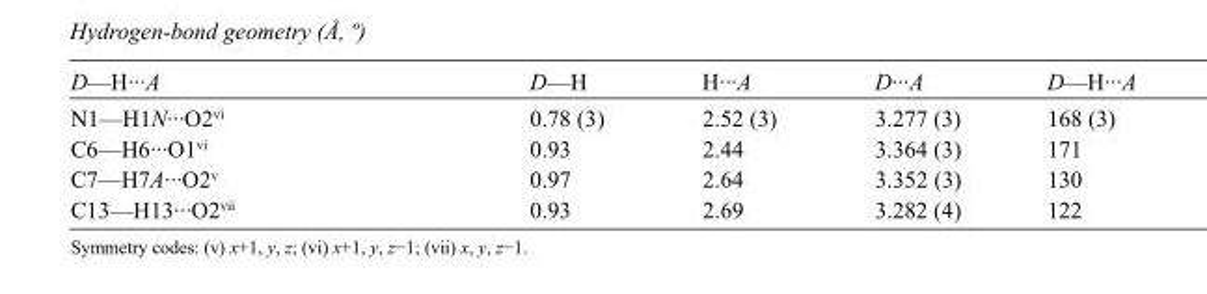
<table><tbody><tr><td>D—H···A</td><td>D—H</td><td>H···A</td><td>D···A</td><td>D—H···A</td></tr><tr><td>N1—H1N···O2<sup>vi</sup></td><td>0.78 (3)</td><td>2.52 (3)</td><td>3.277 (3)</td><td>168 (3)</td></tr><tr><td>C6—H6···O1<sup>vi</sup></td><td>0.93</td><td>2.44</td><td>3.364 (3)</td><td>171</td></tr><tr><td>C7—H7A···O2<sup>v</sup></td><td>0.97</td><td>2.64</td><td>3.352 (3)</td><td>130</td></tr><tr><td>C13—H13···O2<sup>vii</sup></td><td>0.93</td><td>2.69</td><td>3.282 (4)</td><td>122</td></tr></tbody></table>